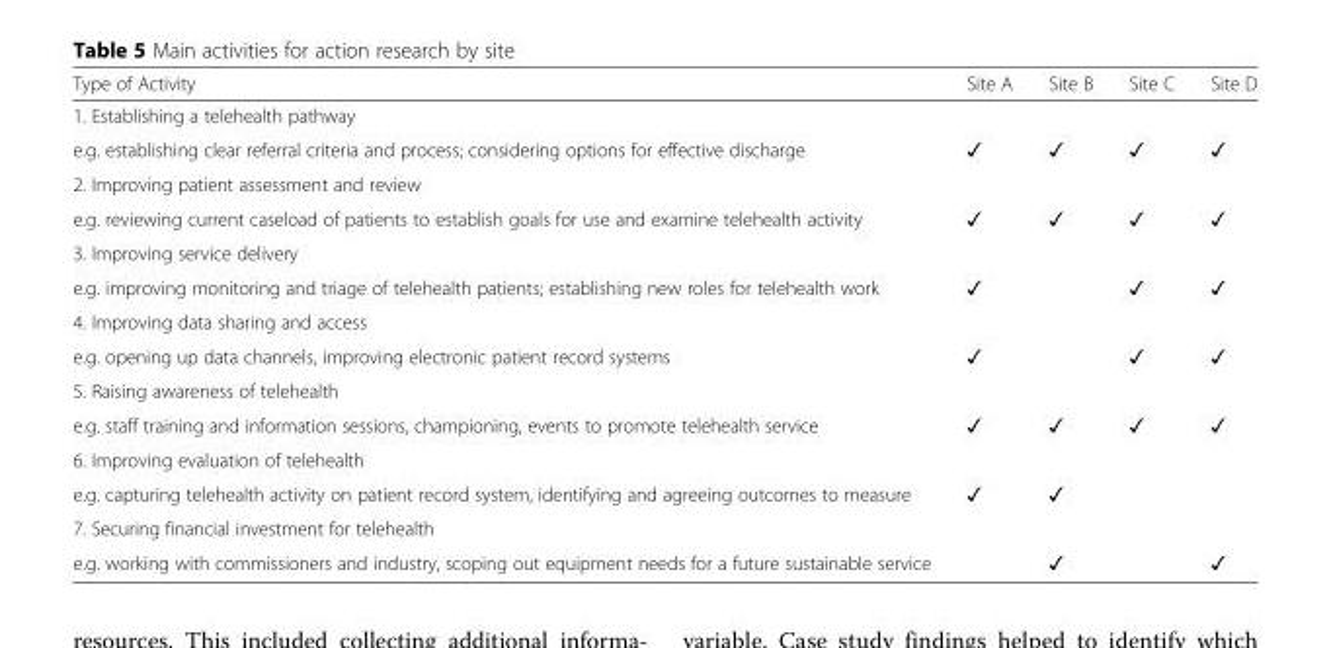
<table><thead><tr><td>Type of Activity</td><td>Site A</td><td>Site B</td><td>Site C</td><td>Site D</td></tr></thead><tbody><tr><td colspan="5">1. Establishing a telehealth pathway</td></tr><tr><td>e.g. establishing clear referral criteria and process; considering options for effective discharge</td><td>✓</td><td>✓</td><td>✓</td><td>✓</td></tr><tr><td colspan="5">2. Improving patient assessment and review</td></tr><tr><td>e.g. reviewing current caseload of patients to establish goals for use and examine telehealth activity</td><td>✓</td><td>✓</td><td>✓</td><td>✓</td></tr><tr><td colspan="5">3. Improving service delivery</td></tr><tr><td>e.g. improving monitoring and triage of telehealth patients; establishing new roles for telehealth work</td><td>✓</td><td></td><td>✓</td><td>✓</td></tr><tr><td colspan="5">4. Improving data sharing and access</td></tr><tr><td>e.g. opening up data channels, improving electronic patient record systems</td><td>✓</td><td></td><td>✓</td><td>✓</td></tr><tr><td colspan="5">5. Raising awareness of telehealth</td></tr><tr><td>e.g. staff training and information sessions, championing, events to promote telehealth service</td><td>✓</td><td>✓</td><td>✓</td><td>✓</td></tr><tr><td colspan="5">6. Improving evaluation of telehealth</td></tr><tr><td>e.g. capturing telehealth activity on patient record system, identifying and agreeing outcomes to measure</td><td>✓</td><td>✓</td><td></td><td></td></tr><tr><td colspan="5">7. Securing financial investment for telehealth</td></tr><tr><td>e.g. working with commissioners and industry, scoping out equipment needs for a future sustainable service</td><td></td><td>✓</td><td></td><td>✓</td></tr></tbody></table>